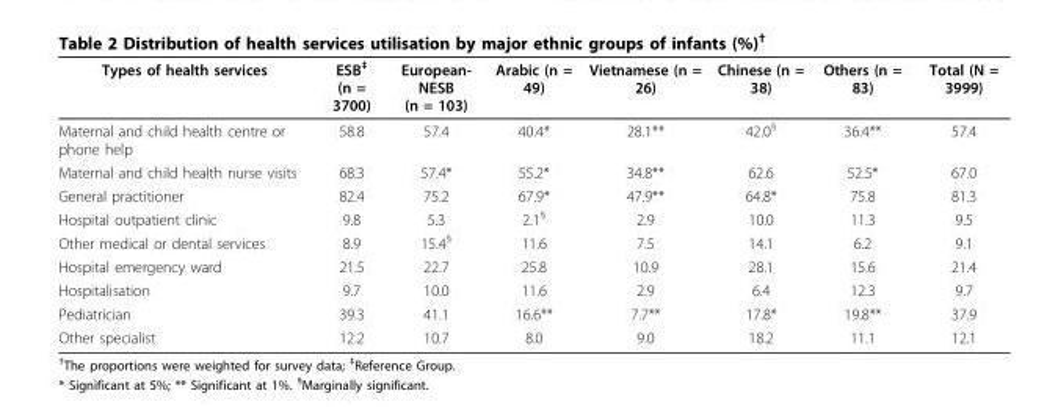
<table><thead><tr><td>Types of health services</td><td>ESB<sup>‡</sup> (n = 3700)</td><td>European- NESB (n = 103)</td><td>Arabic (n = 49)</td><td>Vietnamese (n = 26)</td><td>Chinese (n = 38)</td><td>Others (n = 83)</td><td>Total (N = 3999)</td></tr></thead><tbody><tr><td>Maternal and child health centre or phone help</td><td>58.8</td><td>57.4</td><td>40.4*</td><td>28.1**</td><td>42.0<sup>§</sup></td><td>36.4**</td><td>57.4</td></tr><tr><td>Maternal and child health nurse visits</td><td>68.3</td><td>57.4*</td><td>55.2*</td><td>34.8**</td><td>62.6</td><td>52.5*</td><td>67.0</td></tr><tr><td>General practitioner</td><td>82.4</td><td>75.2</td><td>67.9*</td><td>47.9**</td><td>64.8*</td><td>75.8</td><td>81.3</td></tr><tr><td>Hospital outpatient clinic</td><td>9.8</td><td>5.3</td><td>2.1<sup>§</sup></td><td>2.9</td><td>10.0</td><td>11.3</td><td>9.5</td></tr><tr><td>Other medical or dental services</td><td>8.9</td><td>15.4<sup>§</sup></td><td>11.6</td><td>7.5</td><td>14.1</td><td>6.2</td><td>9.1</td></tr><tr><td>Hospital emergency ward</td><td>21.5</td><td>22.7</td><td>25.8</td><td>10.9</td><td>28.1</td><td>15.6</td><td>21.4</td></tr><tr><td>Hospitalisation</td><td>9.7</td><td>10.0</td><td>11.6</td><td>2.9</td><td>6.4</td><td>12.3</td><td>9.7</td></tr><tr><td>Pediatrician</td><td>39.3</td><td>41.1</td><td>16.6**</td><td>7.7**</td><td>17.8*</td><td>19.8**</td><td>37.9</td></tr><tr><td>Other specialist</td><td>12.2</td><td>10.7</td><td>8.0</td><td>9.0</td><td>18.2</td><td>11.1</td><td>12.1</td></tr></tbody></table>